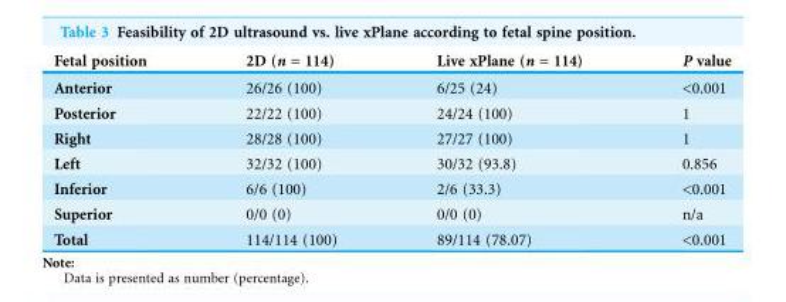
<table><thead><tr><td>Fetal position</td><td>2D (n = 114)</td><td>Live xPlane (n = 114)</td><td>P value</td></tr></thead><tbody><tr><td>Anterior</td><td>26/26 (100)</td><td>6/25 (24)</td><td>&lt;0.001</td></tr><tr><td>Posterior</td><td>22/22 (100)</td><td>24/24 (100)</td><td>1</td></tr><tr><td>Right</td><td>28/28 (100)</td><td>27/27 (100)</td><td>1</td></tr><tr><td>Left</td><td>32/32 (100)</td><td>30/32 (93.8)</td><td>0.856</td></tr><tr><td>Inferior</td><td>6/6 (100)</td><td>2/6 (33.3)</td><td>&lt;0.001</td></tr><tr><td>Superior</td><td>0/0 (0)</td><td>0/0 (0)</td><td>n/a</td></tr><tr><td>Total</td><td>114/114 (100)</td><td>89/114 (78.07)</td><td>&lt;0.001</td></tr></tbody></table>